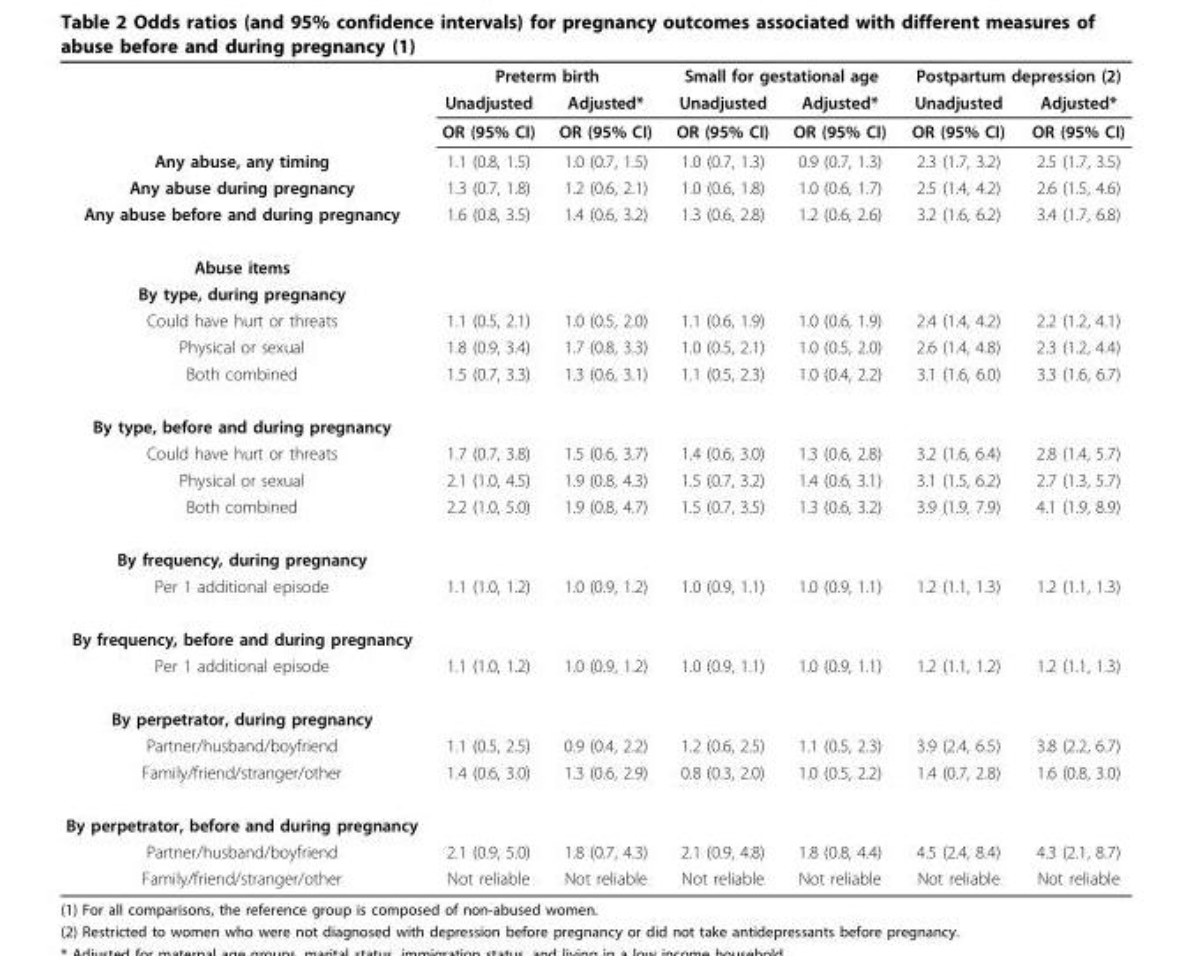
<table><thead><tr><td rowspan="2"></td><td colspan="2">Preterm birth</td><td colspan="2">Small for gestational age</td><td colspan="2">Postpartum depression (2)</td></tr><tr><td>Unadjusted</td><td>Adjusted*</td><td>Unadjusted</td><td>Adjusted*</td><td>Unadjusted</td><td>Adjusted*</td></tr></thead><tbody><tr><td></td><td>OR (95% CI)</td><td>OR (95% CI)</td><td>OR (95% CI)</td><td>OR (95% CI)</td><td>OR (95% CI)</td><td>OR (95% CI)</td></tr><tr><td>Any abuse, any timing</td><td>1.1 (0.8, 1.5)</td><td>1.0 (0.7, 1.5)</td><td>1.0 (0.7, 1.3)</td><td>0.9 (0.7, 1.3)</td><td>2.3 (1.7, 3.2)</td><td>2.5 (1.7, 3.5)</td></tr><tr><td>Any abuse during pregnancy</td><td>1.3 (0.7, 1.8)</td><td>1.2 (0.6, 2.1)</td><td>1.0 (0.6, 1.8)</td><td>1.0 (0.6, 1.7)</td><td>2.5 (1.4, 4.2)</td><td>2.6 (1.5, 4.6)</td></tr><tr><td>Any abuse before and during pregnancy</td><td>1.6 (0.8, 3.5)</td><td>1.4 (0.6, 3.2)</td><td>1.3 (0.6, 2.8)</td><td>1.2 (0.6, 2.6)</td><td>3.2 (1.6, 6.2)</td><td>3.4 (1.7, 6.8)</td></tr><tr><td colspan="7">Abuse items</td></tr><tr><td colspan="7">By type, during pregnancy</td></tr><tr><td>Could have hurt or threats</td><td>1.1 (0.5, 2.1)</td><td>1.0 (0.5, 2.0)</td><td>1.1 (0.6, 1.9)</td><td>1.0 (0.6, 1.9)</td><td>2.4 (1.4, 4.2)</td><td>2.2 (1.2, 4.1)</td></tr><tr><td>Physical or sexual</td><td>1.8 (0.9, 3.4)</td><td>1.7 (0.8, 3.3)</td><td>1.0 (0.5, 2.1)</td><td>1.0 (0.5, 2.0)</td><td>2.6 (1.4, 4.8)</td><td>2.3 (1.2, 4.4)</td></tr><tr><td>Both combined</td><td>1.5 (0.7, 3.3)</td><td>1.3 (0.6, 3.1)</td><td>1.1 (0.5, 2.3)</td><td>1.0 (0.4, 2.2)</td><td>3.1 (1.6, 6.0)</td><td>3.3 (1.6, 6.7)</td></tr><tr><td colspan="7">By type, before and during pregnancy</td></tr><tr><td>Could have hurt or threats</td><td>1.7 (0.7, 3.8)</td><td>1.5 (0.6, 3.7)</td><td>1.4 (0.6, 3.0)</td><td>1.3 (0.6, 2.8)</td><td>3.2 (1.6, 6.4)</td><td>2.8 (1.4, 5.7)</td></tr><tr><td>Physical or sexual</td><td>2.1 (1.0, 4.5)</td><td>1.9 (0.8, 4.3)</td><td>1.5 (0.7, 3.2)</td><td>1.4 (0.6, 3.1)</td><td>3.1 (1.5, 6.2)</td><td>2.7 (1.3, 5.7)</td></tr><tr><td>Both combined</td><td>2.2 (1.0, 5.0)</td><td>1.9 (0.8, 4.7)</td><td>1.5 (0.7, 3.5)</td><td>1.3 (0.6, 3.2)</td><td>3.9 (1.9, 7.9)</td><td>4.1 (1.9, 8.9)</td></tr><tr><td colspan="7">By frequency, during pregnancy</td></tr><tr><td>Per 1 additional episode</td><td>1.1 (1.0, 1.2)</td><td>1.0 (0.9, 1.2)</td><td>1.0 (0.9, 1.1)</td><td>1.0 (0.9, 1.1)</td><td>1.2 (1.1, 1.3)</td><td>1.2 (1.1, 1.3)</td></tr><tr><td colspan="7">By frequency, before and during pregnancy</td></tr><tr><td>Per 1 additional episode</td><td>1.1 (1.0, 1.2)</td><td>1.0 (0.9, 1.2)</td><td>1.0 (0.9, 1.1)</td><td>1.0 (0.9, 1.1)</td><td>1.2 (1.1, 1.2)</td><td>1.2 (1.1, 1.3)</td></tr><tr><td colspan="7">By perpetrator, during pregnancy</td></tr><tr><td>Partner/husband/boyfriend</td><td>1.1 (0.5, 2.5)</td><td>0.9 (0.4, 2.2)</td><td>1.2 (0.6, 2.5)</td><td>1.1 (0.5, 2.3)</td><td>3.9 (2.4, 6.5)</td><td>3.8 (2.2, 6.7)</td></tr><tr><td>Family/friend/stranger/other</td><td>1.4 (0.6, 3.0)</td><td>1.3 (0.6, 2.9)</td><td>0.8 (0.3, 2.0)</td><td>1.0 (0.5, 2.2)</td><td>1.4 (0.7, 2.8)</td><td>1.6 (0.8, 3.0)</td></tr><tr><td colspan="7">By perpetrator, before and during pregnancy</td></tr><tr><td>Partner/husband/boyfriend</td><td>2.1 (0.9, 5.0)</td><td>1.8 (0.7, 4.3)</td><td>2.1 (0.9, 4.8)</td><td>1.8 (0.8, 4.4)</td><td>4.5 (2.4, 8.4)</td><td>4.3 (2.1, 8.7)</td></tr><tr><td>Family/friend/stranger/other</td><td>Not reliable</td><td>Not reliable</td><td>Not reliable</td><td>Not reliable</td><td>Not reliable</td><td>Not reliable</td></tr></tbody></table>